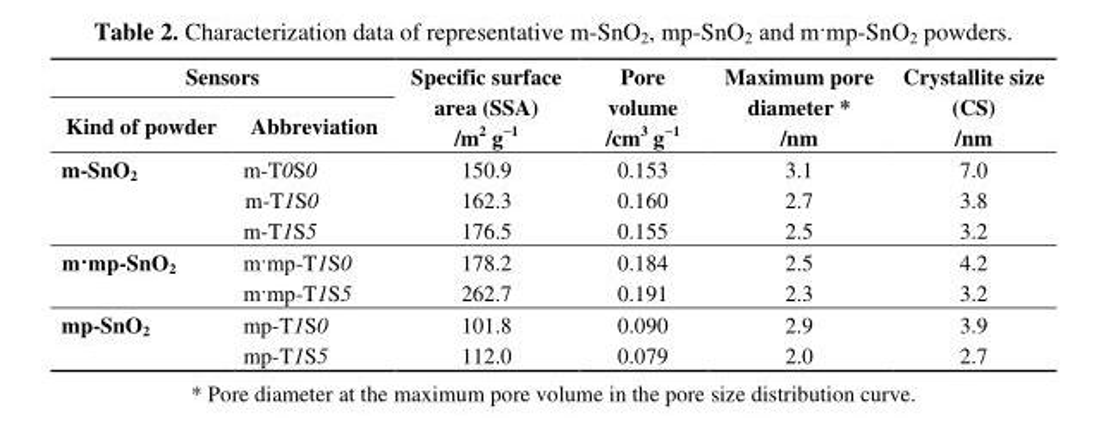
<table><thead><tr><td colspan="2">Sensors</td><td rowspan="2">Specific surface area (SSA) /m<sup>2</sup> g<sup>−1</sup></td><td rowspan="2">Pore volume /cm<sup>3</sup> g<sup>−1</sup></td><td rowspan="2">Maximum pore diameter * /nm</td><td rowspan="2">Crystallite size (CS) /nm</td></tr><tr><td>Kind of powder</td><td>Abbreviation</td></tr></thead><tbody><tr><td rowspan="3">m-SnO<sub>2</sub></td><td>m-T0S0</td><td>150.9</td><td>0.153</td><td>3.1</td><td>7.0</td></tr><tr><td>m-T1S0</td><td>162.3</td><td>0.160</td><td>2.7</td><td>3.8</td></tr><tr><td>m-T1S5</td><td>176.5</td><td>0.155</td><td>2.5</td><td>3.2</td></tr><tr><td rowspan="2">m·mp-SnO<sub>2</sub></td><td>m·mp-T1S0</td><td>178.2</td><td>0.184</td><td>2.5</td><td>4.2</td></tr><tr><td>m·mp-T1S5</td><td>262.7</td><td>0.191</td><td>2.3</td><td>3.2</td></tr><tr><td rowspan="2">mp-SnO<sub>2</sub></td><td>mp-T1S0</td><td>101.8</td><td>0.090</td><td>2.9</td><td>3.9</td></tr><tr><td>mp-T1S5</td><td>112.0</td><td>0.079</td><td>2.0</td><td>2.7</td></tr></tbody></table>